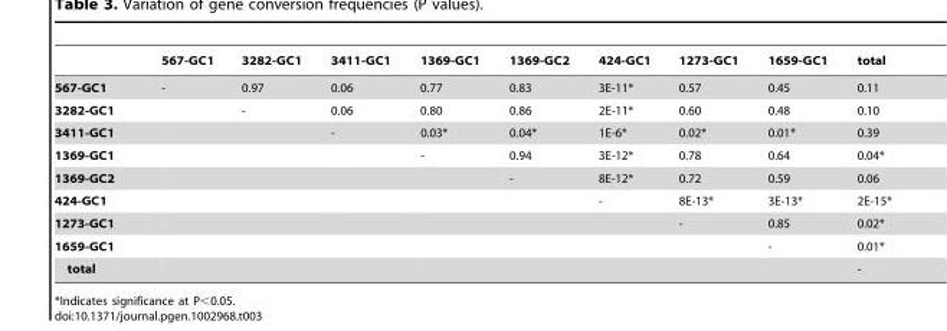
<table><thead><tr><td></td><td>567-GC1</td><td>3282-GC1</td><td>3411-GC1</td><td>1369-GC1</td><td>1369-GC2</td><td>424-GC1</td><td>1273-GC1</td><td>1659-GC1</td><td>total</td></tr></thead><tbody><tr><td>567-GC1</td><td>-</td><td>0.97</td><td>0.06</td><td>0.77</td><td>0.83</td><td>3E-11*</td><td>0.57</td><td>0.45</td><td>0.11</td></tr><tr><td>3282-GC1</td><td></td><td>-</td><td>0.06</td><td>0.80</td><td>0.86</td><td>2E-11*</td><td>0.60</td><td>0.48</td><td>0.10</td></tr><tr><td>3411-GC1</td><td></td><td></td><td>-</td><td>0.03*</td><td>0.04*</td><td>1E-6*</td><td>0.02*</td><td>0.01*</td><td>0.39</td></tr><tr><td>1369-GC1</td><td></td><td></td><td></td><td>-</td><td>0.94</td><td>3E-12*</td><td>0.78</td><td>0.64</td><td>0.04*</td></tr><tr><td>1369-GC2</td><td></td><td></td><td></td><td></td><td>-</td><td>8E-12*</td><td>0.72</td><td>0.59</td><td>0.06</td></tr><tr><td>424-GC1</td><td></td><td></td><td></td><td></td><td></td><td>-</td><td>8E-13*</td><td>3E-13*</td><td>2E-15*</td></tr><tr><td>1273-GC1</td><td></td><td></td><td></td><td></td><td></td><td></td><td>-</td><td>0.85</td><td>0.02*</td></tr><tr><td>1659-GC1</td><td></td><td></td><td></td><td></td><td></td><td></td><td></td><td>-</td><td>0.01*</td></tr><tr><td>total</td><td></td><td></td><td></td><td></td><td></td><td></td><td></td><td></td><td>-</td></tr></tbody></table>